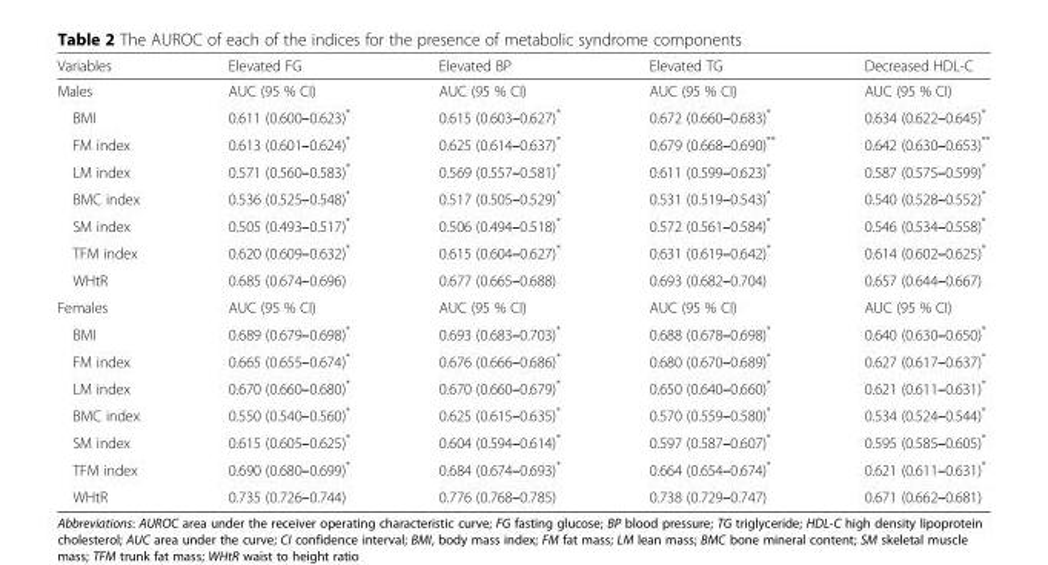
<table><thead><tr><td>Variables</td><td>Elevated FG</td><td>Elevated BP</td><td>Elevated TG</td><td>Decreased HDL-C</td></tr></thead><tbody><tr><td>Males</td><td>AUC (95 % CI)</td><td>AUC (95 % CI)</td><td>AUC (95 % CI)</td><td>AUC (95 % CI)</td></tr><tr><td>BMI</td><td>0.611 (0.600–0.623)*</td><td>0.615 (0.603–0.627)*</td><td>0.672 (0.660–0.683)*</td><td>0.634 (0.622–0.645)*</td></tr><tr><td>FM index</td><td>0.613 (0.601–0.624)*</td><td>0.625 (0.614–0.637)*</td><td>0.679 (0.668–0.690)**</td><td>0.642 (0.630–0.653)**</td></tr><tr><td>LM index</td><td>0.571 (0.560–0.583)*</td><td>0.569 (0.557–0.581)*</td><td>0.611 (0.599–0.623)*</td><td>0.587 (0.575–0.599)*</td></tr><tr><td>BMC index</td><td>0.536 (0.525–0.548)*</td><td>0.517 (0.505–0.529)*</td><td>0.531 (0.519–0.543)*</td><td>0.540 (0.528–0.552)*</td></tr><tr><td>SM index</td><td>0.505 (0.493–0.517)*</td><td>0.506 (0.494–0.518)*</td><td>0.572 (0.561–0.584)*</td><td>0.546 (0.534–0.558)*</td></tr><tr><td>TFM index</td><td>0.620 (0.609–0.632)*</td><td>0.615 (0.604–0.627)*</td><td>0.631 (0.619–0.642)*</td><td>0.614 (0.602–0.625)*</td></tr><tr><td>WHtR</td><td>0.685 (0.674–0.696)</td><td>0.677 (0.665–0.688)</td><td>0.693 (0.682–0.704)</td><td>0.657 (0.644–0.667)</td></tr><tr><td>Females</td><td>AUC (95 % CI)</td><td>AUC (95 % CI)</td><td>AUC (95 % CI)</td><td>AUC (95 % CI)</td></tr><tr><td>BMI</td><td>0.689 (0.679–0.698)*</td><td>0.693 (0.683–0.703)*</td><td>0.688 (0.678–0.698)*</td><td>0.640 (0.630–0.650)*</td></tr><tr><td>FM index</td><td>0.665 (0.655–0.674)*</td><td>0.676 (0.666–0.686)*</td><td>0.680 (0.670–0.689)*</td><td>0.627 (0.617–0.637)*</td></tr><tr><td>LM index</td><td>0.670 (0.660–0.680)*</td><td>0.670 (0.660–0.679)*</td><td>0.650 (0.640–0.660)*</td><td>0.621 (0.611–0.631)*</td></tr><tr><td>BMC index</td><td>0.550 (0.540–0.560)*</td><td>0.625 (0.615–0.635)*</td><td>0.570 (0.559–0.580)*</td><td>0.534 (0.524–0.544)*</td></tr><tr><td>SM index</td><td>0.615 (0.605–0.625)*</td><td>0.604 (0.594–0.614)*</td><td>0.597 (0.587–0.607)*</td><td>0.595 (0.585–0.605)*</td></tr><tr><td>TFM index</td><td>0.690 (0.680–0.699)*</td><td>0.684 (0.674–0.693)*</td><td>0.664 (0.654–0.674)*</td><td>0.621 (0.611–0.631)*</td></tr><tr><td>WHtR</td><td>0.735 (0.726–0.744)</td><td>0.776 (0.768–0.785)</td><td>0.738 (0.729–0.747)</td><td>0.671 (0.662–0.681)</td></tr></tbody></table>